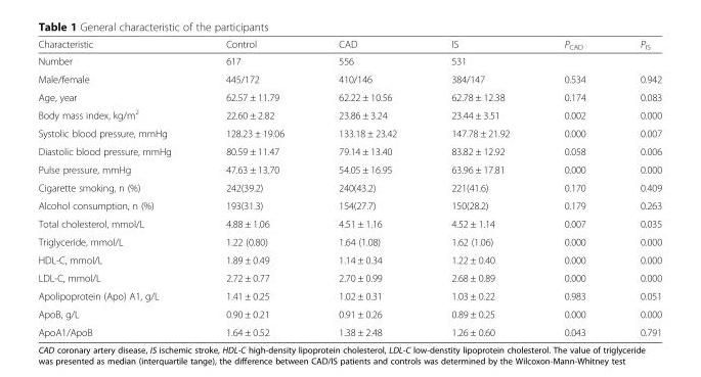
<table><thead><tr><td>Characteristic</td><td>Control</td><td>CAD</td><td>IS</td><td>P<sub>CAD</sub></td><td>P<sub>IS</sub></td></tr></thead><tbody><tr><td>Number</td><td>617</td><td>556</td><td>531</td><td></td><td></td></tr><tr><td>Male/female</td><td>445/172</td><td>410/146</td><td>384/147</td><td>0.534</td><td>0.942</td></tr><tr><td>Age, year</td><td>62.57 ± 11.79</td><td>62.22 ± 10.56</td><td>62.78 ± 12.38</td><td>0.174</td><td>0.083</td></tr><tr><td>Body mass index, kg/m<sup>2</sup></td><td>22.60 ± 2.82</td><td>23.86 ± 3.24</td><td>23.44 ± 3.51</td><td>0.002</td><td>0.000</td></tr><tr><td>Systolic blood pressure, mmHg</td><td>128.23 ± 19.06</td><td>133.18 ± 23.42</td><td>147.78 ± 21.92</td><td>0.000</td><td>0.007</td></tr><tr><td>Diastolic blood pressure, mmHg</td><td>80.59 ± 11.47</td><td>79.14 ± 13.40</td><td>83.82 ± 12.92</td><td>0.058</td><td>0.006</td></tr><tr><td>Pulse pressure, mmHg</td><td>47.63 ± 13.70</td><td>54.05 ± 16.95</td><td>63.96 ± 17.81</td><td>0.000</td><td>0.000</td></tr><tr><td>Cigarette smoking, n (%)</td><td>242(39.2)</td><td>240(43.2)</td><td>221(41.6)</td><td>0.170</td><td>0.409</td></tr><tr><td>Alcohol consumption, n (%)</td><td>193(31.3)</td><td>154(27.7)</td><td>150(28.2)</td><td>0.179</td><td>0.263</td></tr><tr><td>Total cholesterol, mmol/L</td><td>4.88 ± 1.06</td><td>4.51 ± 1.16</td><td>4.52 ± 1.14</td><td>0.007</td><td>0.035</td></tr><tr><td>Triglyceride, mmol/L</td><td>1.22 (0.80)</td><td>1.64 (1.08)</td><td>1.62 (1.06)</td><td>0.000</td><td>0.000</td></tr><tr><td>HDL-C, mmol/L</td><td>1.89 ± 0.49</td><td>1.14 ± 0.34</td><td>1.22 ± 0.40</td><td>0.000</td><td>0.000</td></tr><tr><td>LDL-C, mmol/L</td><td>2.72 ± 0.77</td><td>2.70 ± 0.99</td><td>2.68 ± 0.89</td><td>0.000</td><td>0.000</td></tr><tr><td>Apolipoprotein (Apo) A1, g/L</td><td>1.41 ± 0.25</td><td>1.02 ± 0.31</td><td>1.03 ± 0.22</td><td>0.983</td><td>0.051</td></tr><tr><td>ApoB, g/L</td><td>0.90 ± 0.21</td><td>0.91 ± 0.26</td><td>0.89 ± 0.25</td><td>0.000</td><td>0.000</td></tr><tr><td>ApoA1/ApoB</td><td>1.64 ± 0.52</td><td>1.38 ± 2.48</td><td>1.26 ± 0.60</td><td>0.043</td><td>0.791</td></tr></tbody></table>